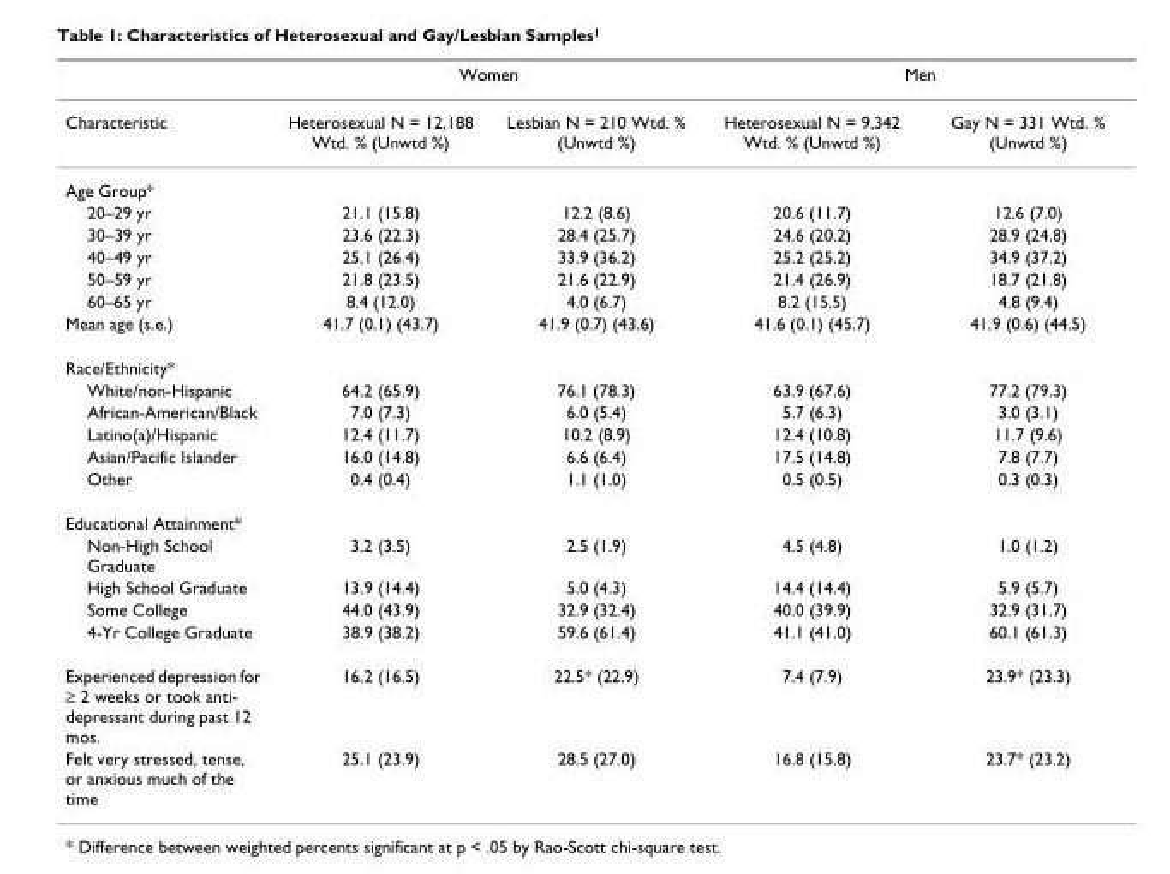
<table><thead><tr><td rowspan="2">Characteristic</td><td colspan="2">Women</td><td colspan="2">Men</td></tr><tr><td>Heterosexual N = 12,188 Wtd. % (Unwtd %)</td><td>Lesbian N = 210 Wtd. % (Unwtd %)</td><td>Heterosexual N = 9,342 Wtd. % (Unwtd %)</td><td>Gay N = 331 Wtd. % (Unwtd %)</td></tr></thead><tbody><tr><td colspan="5">Age Group*</td></tr><tr><td>20–29 yr</td><td>21.1 (15.8)</td><td>12.2 (8.6)</td><td>20.6 (11.7)</td><td>12.6 (7.0)</td></tr><tr><td>30–39 yr</td><td>23.6 (22.3)</td><td>28.4 (25.7)</td><td>24.6 (20.2)</td><td>28.9 (24.8)</td></tr><tr><td>40–49 yr</td><td>25.1 (26.4)</td><td>33.9 (36.2)</td><td>25.2 (25.2)</td><td>34.9 (37.2)</td></tr><tr><td>50–59 yr</td><td>21.8 (23.5)</td><td>21.6 (22.9)</td><td>21.4 (26.9)</td><td>18.7 (21.8)</td></tr><tr><td>60–65 yr</td><td>8.4 (12.0)</td><td>4.0 (6.7)</td><td>8.2 (15.5)</td><td>4.8 (9.4)</td></tr><tr><td>Mean age (s.e.)</td><td>41.7 (0.1) (43.7)</td><td>41.9 (0.7) (43.6)</td><td>41.6 (0.1) (45.7)</td><td>41.9 (0.6) (44.5)</td></tr><tr><td colspan="5">Race/Ethnicity*</td></tr><tr><td>White/non-Hispanic</td><td>64.2 (65.9)</td><td>76.1 (78.3)</td><td>63.9 (67.6)</td><td>77.2 (79.3)</td></tr><tr><td>African-American/Black</td><td>7.0 (7.3)</td><td>6.0 (5.4)</td><td>5.7 (6.3)</td><td>3.0 (3.1)</td></tr><tr><td>Latino(a)/Hispanic</td><td>12.4 (11.7)</td><td>10.2 (8.9)</td><td>12.4 (10.8)</td><td>11.7 (9.6)</td></tr><tr><td>Asian/Pacific Islander</td><td>16.0 (14.8)</td><td>6.6 (6.4)</td><td>17.5 (14.8)</td><td>7.8 (7.7)</td></tr><tr><td>Other</td><td>0.4 (0.4)</td><td>1.1 (1.0)</td><td>0.5 (0.5)</td><td>0.3 (0.3)</td></tr><tr><td colspan="5">Educational Attainment*</td></tr><tr><td>Non-High School Graduate</td><td>3.2 (3.5)</td><td>2.5 (1.9)</td><td>4.5 (4.8)</td><td>1.0 (1.2)</td></tr><tr><td>High School Graduate</td><td>13.9 (14.4)</td><td>5.0 (4.3)</td><td>14.4 (14.4)</td><td>5.9 (5.7)</td></tr><tr><td>Some College</td><td>44.0 (43.9)</td><td>32.9 (32.4)</td><td>40.0 (39.9)</td><td>32.9 (31.7)</td></tr><tr><td>4-Yr College Graduate</td><td>38.9 (38.2)</td><td>59.6 (61.4)</td><td>41.1 (41.0)</td><td>60.1 (61.3)</td></tr><tr><td>Experienced depression for ≥ 2 weeks or took anti- depressant during past 12 mos.</td><td>16.2 (16.5)</td><td>22.5* (22.9)</td><td>7.4 (7.9)</td><td>23.9* (23.3)</td></tr><tr><td>Felt very stressed, tense, or anxious much of the time</td><td>25.1 (23.9)</td><td>28.5 (27.0)</td><td>16.8 (15.8)</td><td>23.7* (23.2)</td></tr></tbody></table>